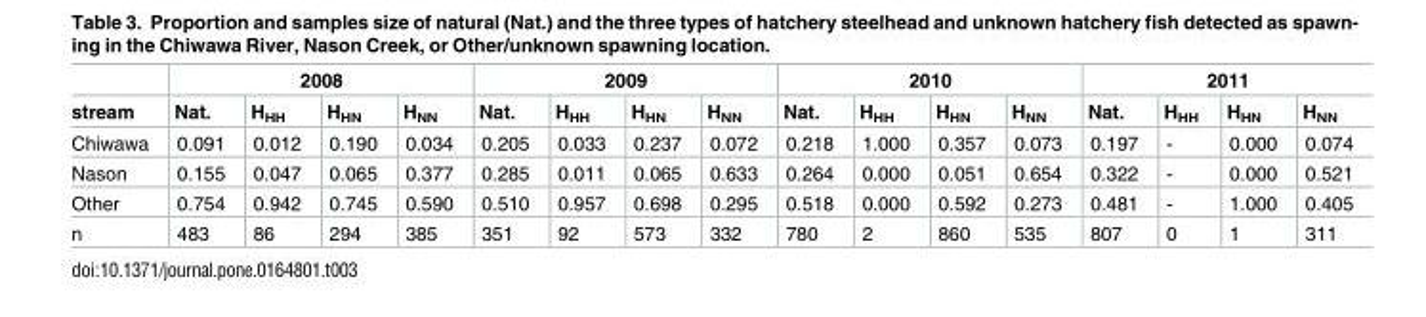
<table><thead><tr><td rowspan="2">stream</td><td colspan="4">2008</td><td colspan="4">2009</td><td colspan="4">2010</td><td colspan="4">2011</td></tr><tr><td>Nat.</td><td>H<sub>HH</sub></td><td>H<sub>HN</sub></td><td>H<sub>NN</sub></td><td>Nat.</td><td>H<sub>HH</sub></td><td>H<sub>HN</sub></td><td>H<sub>NN</sub></td><td>Nat.</td><td>H<sub>HH</sub></td><td>H<sub>HN</sub></td><td>H<sub>NN</sub></td><td>Nat.</td><td>H<sub>HH</sub></td><td>H<sub>HN</sub></td><td>H<sub>NN</sub></td></tr></thead><tbody><tr><td>Chiwawa</td><td>0.091</td><td>0.012</td><td>0.190</td><td>0.034</td><td>0.205</td><td>0.033</td><td>0.237</td><td>0.072</td><td>0.218</td><td>1.000</td><td>0.357</td><td>0.073</td><td>0.197</td><td>-</td><td>0.000</td><td>0.074</td></tr><tr><td>Nason</td><td>0.155</td><td>0.047</td><td>0.065</td><td>0.377</td><td>0.285</td><td>0.011</td><td>0.065</td><td>0.633</td><td>0.264</td><td>0.000</td><td>0.051</td><td>0.654</td><td>0.322</td><td>-</td><td>0.000</td><td>0.521</td></tr><tr><td>Other</td><td>0.754</td><td>0.942</td><td>0.745</td><td>0.590</td><td>0.510</td><td>0.957</td><td>0.698</td><td>0.295</td><td>0.518</td><td>0.000</td><td>0.592</td><td>0.273</td><td>0.481</td><td>-</td><td>1.000</td><td>0.405</td></tr><tr><td>n</td><td>483</td><td>86</td><td>294</td><td>385</td><td>351</td><td>92</td><td>573</td><td>332</td><td>780</td><td>2</td><td>860</td><td>535</td><td>807</td><td>0</td><td>1</td><td>311</td></tr></tbody></table>